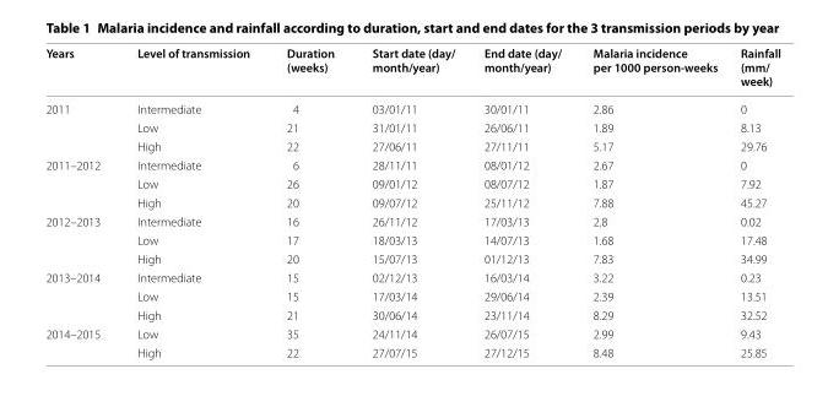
<table><thead><tr><td>Years</td><td>Level of transmission</td><td>Duration (weeks)</td><td>Start date (day/ month/year)</td><td>End date (day/ month/year)</td><td>Malaria incidence per 1000 person-weeks</td><td>Rainfall (mm/ week)</td></tr></thead><tbody><tr><td rowspan="3">2011</td><td>Intermediate</td><td>4</td><td>03/01/11</td><td>30/01/11</td><td>2.86</td><td>0</td></tr><tr><td>Low</td><td>21</td><td>31/01/11</td><td>26/06/11</td><td>1.89</td><td>8.13</td></tr><tr><td>High</td><td>22</td><td>27/06/11</td><td>27/11/11</td><td>5.17</td><td>29.76</td></tr><tr><td rowspan="3">2011–2012</td><td>Intermediate</td><td>6</td><td>28/11/11</td><td>08/01/12</td><td>2.67</td><td>0</td></tr><tr><td>Low</td><td>26</td><td>09/01/12</td><td>08/07/12</td><td>1.87</td><td>7.92</td></tr><tr><td>High</td><td>20</td><td>09/07/12</td><td>25/11/12</td><td>7.88</td><td>45.27</td></tr><tr><td rowspan="3">2012–2013</td><td>Intermediate</td><td>16</td><td>26/11/12</td><td>17/03/13</td><td>2.8</td><td>0.02</td></tr><tr><td>Low</td><td>17</td><td>18/03/13</td><td>14/07/13</td><td>1.68</td><td>17.48</td></tr><tr><td>High</td><td>20</td><td>15/07/13</td><td>01/12/13</td><td>7.83</td><td>34.99</td></tr><tr><td rowspan="3">2013–2014</td><td>Intermediate</td><td>15</td><td>02/12/13</td><td>16/03/14</td><td>3.22</td><td>0.23</td></tr><tr><td>Low</td><td>15</td><td>17/03/14</td><td>29/06/14</td><td>2.39</td><td>13.51</td></tr><tr><td>High</td><td>21</td><td>30/06/14</td><td>23/11/14</td><td>8.29</td><td>32.52</td></tr><tr><td rowspan="2">2014–2015</td><td>Low</td><td>35</td><td>24/11/14</td><td>26/07/15</td><td>2.99</td><td>9.43</td></tr><tr><td>High</td><td>22</td><td>27/07/15</td><td>27/12/15</td><td>8.48</td><td>25.85</td></tr></tbody></table>